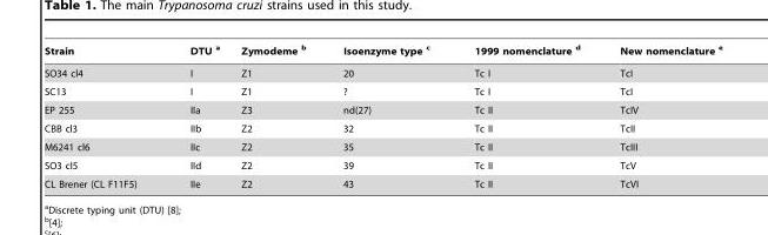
<table><thead><tr><td>Strain</td><td>DTU a</td><td>Zymodeme b</td><td>Isoenzyme type c</td><td>1999 nomenclature d</td><td>New nomenclature e</td></tr></thead><tbody><tr><td>SO34 cl4</td><td>I</td><td>Z1</td><td>20</td><td>Tc I</td><td>TcI</td></tr><tr><td>SC13</td><td>I</td><td>Z1</td><td>?</td><td>Tc I</td><td>TcI</td></tr><tr><td>EP 255</td><td>IIa</td><td>Z3</td><td>nd(27)</td><td>Tc II</td><td>TcIV</td></tr><tr><td>CBB cl3</td><td>IIb</td><td>Z2</td><td>32</td><td>Tc II</td><td>TcII</td></tr><tr><td>M6241 cl6</td><td>IIc</td><td>Z2</td><td>35</td><td>Tc II</td><td>TcIII</td></tr><tr><td>SO3 cl5</td><td>IId</td><td>Z2</td><td>39</td><td>Tc II</td><td>TcV</td></tr><tr><td>CL Brener (CL F11F5)</td><td>IIe</td><td>Z2</td><td>43</td><td>Tc II</td><td>TcVI</td></tr></tbody></table>